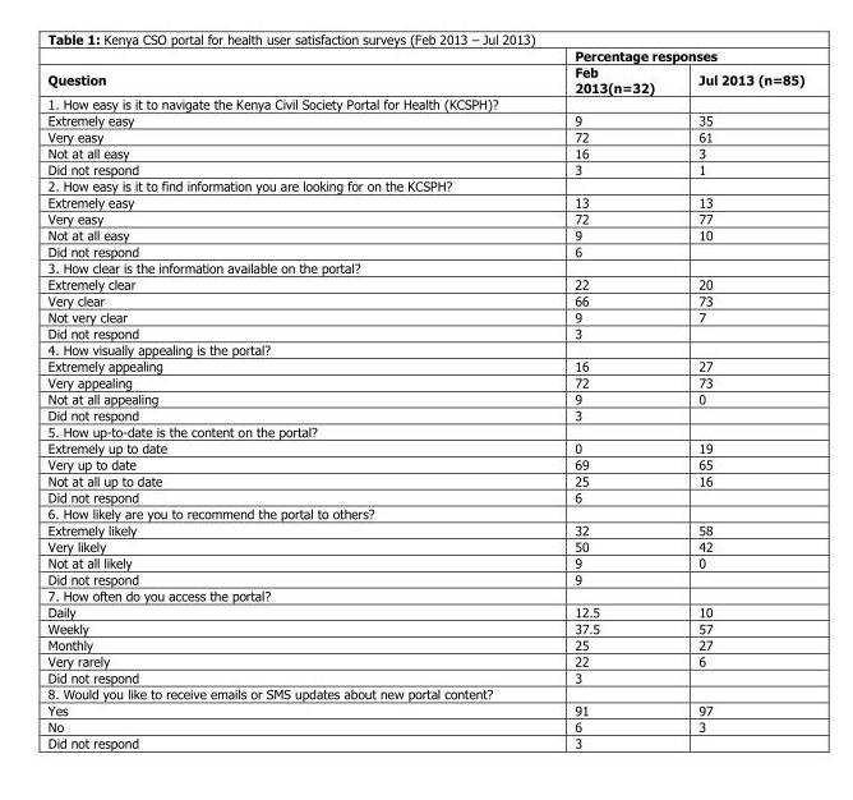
<table><thead><tr><td rowspan="2">Question</td><td colspan="2">Percentage responses</td></tr><tr><td>Feb 2013(n=32)</td><td>Jul 2013 (n=85)</td></tr></thead><tbody><tr><td colspan="3">1. How easy is it to navigate the Kenya Civil Society Portal for Health (KCSPH)?</td></tr><tr><td>Extremely easy</td><td>9</td><td>35</td></tr><tr><td>Very easy</td><td>72</td><td>61</td></tr><tr><td>Not at all easy</td><td>16</td><td>3</td></tr><tr><td>Did not respond</td><td>3</td><td>1</td></tr><tr><td colspan="3">2. How easy is it to find information you are looking for on the KCSPH?</td></tr><tr><td>Extremely easy</td><td>13</td><td>13</td></tr><tr><td>Very easy</td><td>72</td><td>77</td></tr><tr><td>Not at all easy</td><td>9</td><td>10</td></tr><tr><td>Did not respond</td><td>6</td><td></td></tr><tr><td colspan="3">3. How clear is the information available on the portal?</td></tr><tr><td>Extremely clear</td><td>22</td><td>20</td></tr><tr><td>Very clear</td><td>66</td><td>73</td></tr><tr><td>Not very clear</td><td>9</td><td>7</td></tr><tr><td>Did not respond</td><td>3</td><td></td></tr><tr><td colspan="3">4. How visually appealing is the portal?</td></tr><tr><td>Extremely appealing</td><td>16</td><td>27</td></tr><tr><td>Very appealing</td><td>72</td><td>73</td></tr><tr><td>Not at all appealing</td><td>9</td><td>0</td></tr><tr><td>Did not respond</td><td>3</td><td></td></tr><tr><td colspan="3">5. How up-to-date is the content on the portal?</td></tr><tr><td>Extremely up to date</td><td>0</td><td>19</td></tr><tr><td>Very up to date</td><td>69</td><td>65</td></tr><tr><td>Not at all up to date</td><td>25</td><td>16</td></tr><tr><td>Did not respond</td><td>6</td><td></td></tr><tr><td colspan="3">6. How likely are you to recommend the portal to others?</td></tr><tr><td>Extremely likely</td><td>32</td><td>58</td></tr><tr><td>Very likely</td><td>50</td><td>42</td></tr><tr><td>Not at all likely</td><td>9</td><td>0</td></tr><tr><td>Did not respond</td><td>9</td><td></td></tr><tr><td colspan="3">7. How often do you access the portal?</td></tr><tr><td>Daily</td><td>12.5</td><td>10</td></tr><tr><td>Weekly</td><td>37.5</td><td>57</td></tr><tr><td>Monthly</td><td>25</td><td>27</td></tr><tr><td>Very rarely</td><td>22</td><td>6</td></tr><tr><td>Did not respond</td><td>3</td><td></td></tr><tr><td colspan="3">8. Would you like to receive emails or SMS updates about new portal content?</td></tr><tr><td>Yes</td><td>91</td><td>97</td></tr><tr><td>No</td><td>6</td><td>3</td></tr><tr><td>Did not respond</td><td>3</td><td></td></tr></tbody></table>